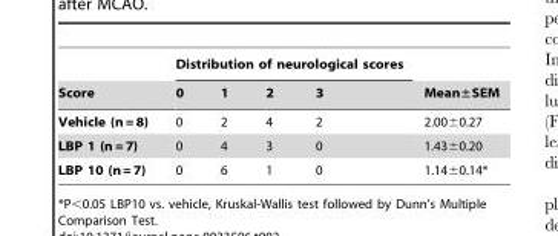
<table><thead><tr><td rowspan="2">Score</td><td colspan="4">Distribution of neurological scores</td><td rowspan="2">Mean±SEM</td></tr><tr><td>0</td><td>1</td><td>2</td><td>3</td></tr></thead><tbody><tr><td>Vehicle (n = 8)</td><td>0</td><td>2</td><td>4</td><td>2</td><td>2.00±0.27</td></tr><tr><td>LBP 1 (n = 7)</td><td>0</td><td>4</td><td>3</td><td>0</td><td>1.43±0.20</td></tr><tr><td>LBP 10 (n = 7)</td><td>0</td><td>6</td><td>1</td><td>0</td><td>1.14±0.14*</td></tr></tbody></table>